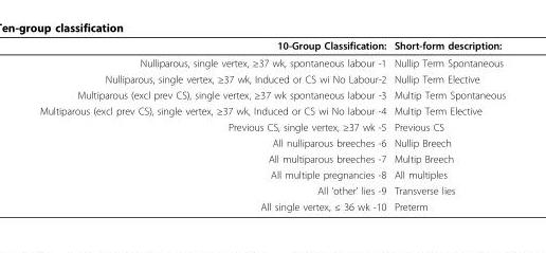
<table><thead><tr><td>10-Group Classification:</td><td>Short-form description:</td></tr></thead><tbody><tr><td>Nulliparous, single vertex, ≥37 wk, spontaneous labour -1</td><td>Nullip Term Spontaneous</td></tr><tr><td>Nulliparous, single vertex, ≥37 wk, Induced or CS wi No Labour-2</td><td>Nullip Term Elective</td></tr><tr><td>Multiparous (excl prev CS), single vertex, ≥37 wk spontaneous labour -3</td><td>Multip Term Spontaneous</td></tr><tr><td>Multiparous (excl prev CS), single vertex, ≥37 wk, Induced or CS wi No labour -4</td><td>Multip Term Elective</td></tr><tr><td>Previous CS, single vertex, ≥37 wk -5</td><td>Previous CS</td></tr><tr><td>All nulliparous breeches -6</td><td>Nullip Breech</td></tr><tr><td>All multiparous breeches -7</td><td>Multip Breech</td></tr><tr><td>All multiple pregnancies -8</td><td>All multiples</td></tr><tr><td>All ‘other’ lies -9</td><td>Transverse lies</td></tr><tr><td>All single vertex, ≤ 36 wk -10</td><td>Preterm</td></tr></tbody></table>